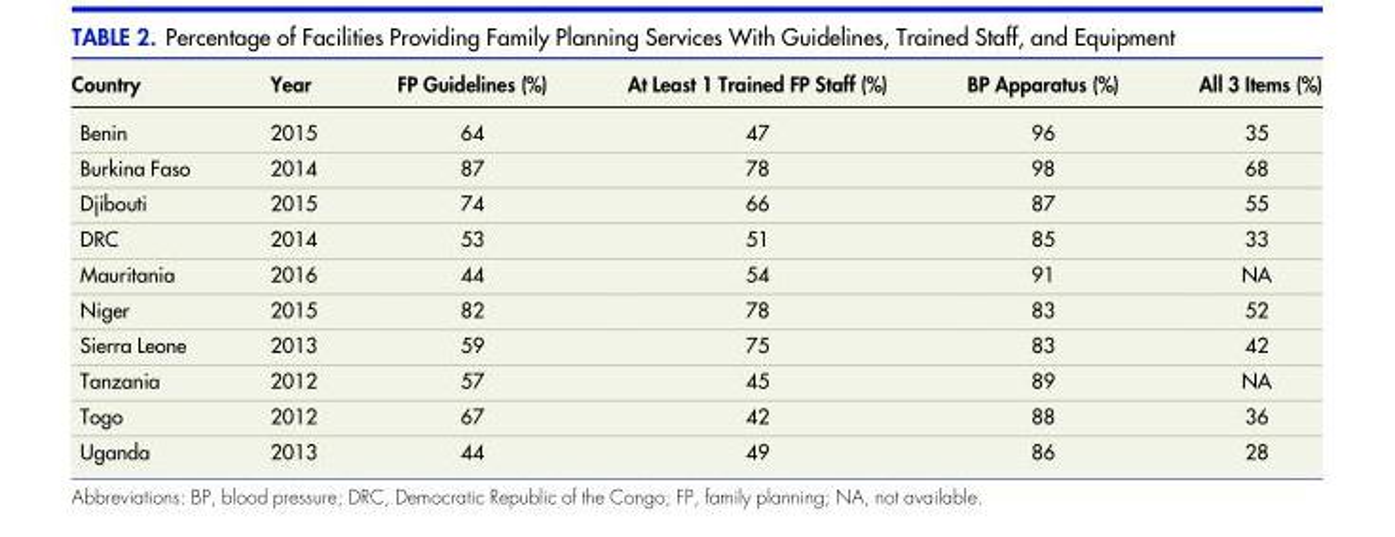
<table><thead><tr><td>Country</td><td>Year</td><td>FP Guidelines (%)</td><td>At Least 1 Trained FP Staff (%)</td><td>BP Apparatus (%)</td><td>All 3 Items (%)</td></tr></thead><tbody><tr><td>Benin</td><td>2015</td><td>64</td><td>47</td><td>96</td><td>35</td></tr><tr><td>Burkina Faso</td><td>2014</td><td>87</td><td>78</td><td>98</td><td>68</td></tr><tr><td>Djibouti</td><td>2015</td><td>74</td><td>66</td><td>87</td><td>55</td></tr><tr><td>DRC</td><td>2014</td><td>53</td><td>51</td><td>85</td><td>33</td></tr><tr><td>Mauritania</td><td>2016</td><td>44</td><td>54</td><td>91</td><td>NA</td></tr><tr><td>Niger</td><td>2015</td><td>82</td><td>78</td><td>83</td><td>52</td></tr><tr><td>Sierra Leone</td><td>2013</td><td>59</td><td>75</td><td>83</td><td>42</td></tr><tr><td>Tanzania</td><td>2012</td><td>57</td><td>45</td><td>89</td><td>NA</td></tr><tr><td>Togo</td><td>2012</td><td>67</td><td>42</td><td>88</td><td>36</td></tr><tr><td>Uganda</td><td>2013</td><td>44</td><td>49</td><td>86</td><td>28</td></tr></tbody></table>